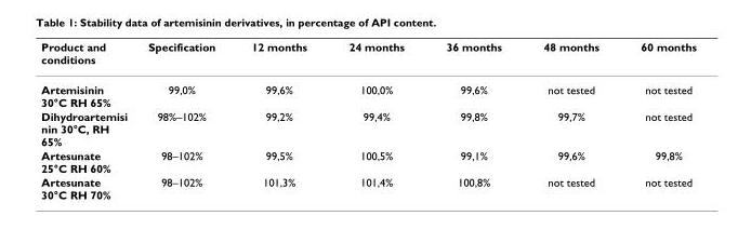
<table><thead><tr><td>Product and conditions</td><td>Specification</td><td>12 months</td><td>24 months</td><td>36 months</td><td>48 months</td><td>60 months</td></tr></thead><tbody><tr><td>Artemisinin 30°C RH 65%</td><td>99,0%</td><td>99,6%</td><td>100,0%</td><td>99,6%</td><td>not tested</td><td>not tested</td></tr><tr><td>Dihydroartemisi nin 30°C, RH 65%</td><td>98%–102%</td><td>99,2%</td><td>99,4%</td><td>99,8%</td><td>99,7%</td><td>not tested</td></tr><tr><td>Artesunate 25°C RH 60%</td><td>98–102%</td><td>99,5%</td><td>100,5%</td><td>99,1%</td><td>99,6%</td><td>99,8%</td></tr><tr><td>Artesunate 30°C RH 70%</td><td>98–102%</td><td>101,3%</td><td>101,4%</td><td>100,8%</td><td>not tested</td><td>not tested</td></tr></tbody></table>